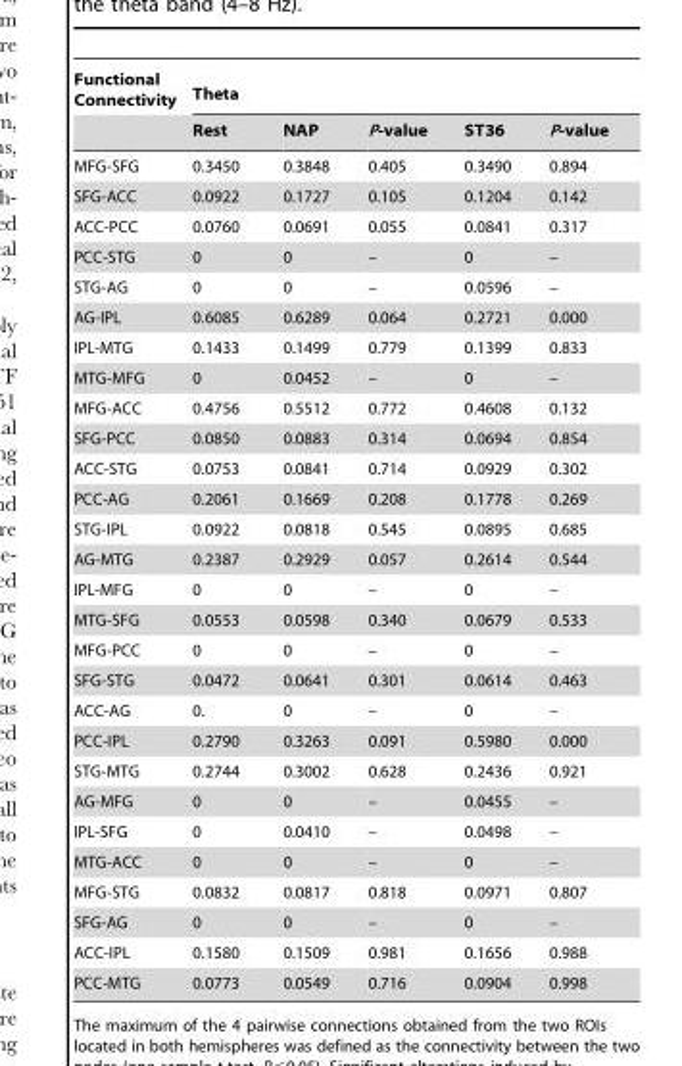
<table><thead><tr><td rowspan="2">Functional Connectivity</td><td colspan="5">Theta</td></tr><tr><td>Rest</td><td>NAP</td><td>P-value</td><td>ST36</td><td>P-value</td></tr></thead><tbody><tr><td>MFG-SFG</td><td>0.3450</td><td>0.3848</td><td>0.405</td><td>0.3490</td><td>0.894</td></tr><tr><td>SFG-ACC</td><td>0.0922</td><td>0.1727</td><td>0.105</td><td>0.1204</td><td>0.142</td></tr><tr><td>ACC-PCC</td><td>0.0760</td><td>0.0691</td><td>0.055</td><td>0.0841</td><td>0.317</td></tr><tr><td>PCC-STG</td><td>0</td><td>0</td><td>–</td><td>0</td><td>–</td></tr><tr><td>STG-AG</td><td>0</td><td>0</td><td>–</td><td>0.0596</td><td>–</td></tr><tr><td>AG-IPL</td><td>0.6085</td><td>0.6289</td><td>0.064</td><td>0.2721</td><td>0.000</td></tr><tr><td>IPL-MTG</td><td>0.1433</td><td>0.1499</td><td>0.779</td><td>0.1399</td><td>0.833</td></tr><tr><td>MTG-MFG</td><td>0</td><td>0.0452</td><td>–</td><td>0</td><td>–</td></tr><tr><td>MFG-ACC</td><td>0.4756</td><td>0.5512</td><td>0.772</td><td>0.4608</td><td>0.132</td></tr><tr><td>SFG-PCC</td><td>0.0850</td><td>0.0883</td><td>0.314</td><td>0.0694</td><td>0.854</td></tr><tr><td>ACC-STG</td><td>0.0753</td><td>0.0841</td><td>0.714</td><td>0.0929</td><td>0.302</td></tr><tr><td>PCC-AG</td><td>0.2061</td><td>0.1669</td><td>0.208</td><td>0.1778</td><td>0.269</td></tr><tr><td>STG-IPL</td><td>0.0922</td><td>0.0818</td><td>0.545</td><td>0.0895</td><td>0.685</td></tr><tr><td>AG-MTG</td><td>0.2387</td><td>0.2929</td><td>0.057</td><td>0.2614</td><td>0.544</td></tr><tr><td>IPL-MFG</td><td>0</td><td>0</td><td>–</td><td>0</td><td>–</td></tr><tr><td>MTG-SFG</td><td>0.0553</td><td>0.0598</td><td>0.340</td><td>0.0679</td><td>0.533</td></tr><tr><td>MFG-PCC</td><td>0</td><td>0</td><td>–</td><td>0</td><td>–</td></tr><tr><td>SFG-STG</td><td>0.0472</td><td>0.0641</td><td>0.301</td><td>0.0614</td><td>0.463</td></tr><tr><td>ACC-AG</td><td>0.</td><td>0</td><td>–</td><td>0</td><td>–</td></tr><tr><td>PCC-IPL</td><td>0.2790</td><td>0.3263</td><td>0.091</td><td>0.5980</td><td>0.000</td></tr><tr><td>STG-MTG</td><td>0.2744</td><td>0.3002</td><td>0.628</td><td>0.2436</td><td>0.921</td></tr><tr><td>AG-MFG</td><td>0</td><td>0</td><td>–</td><td>0.0455</td><td>–</td></tr><tr><td>IPL-SFG</td><td>0</td><td>0.0410</td><td>–</td><td>0.0498</td><td>–</td></tr><tr><td>MTG-ACC</td><td>0</td><td>0</td><td>–</td><td>0</td><td>–</td></tr><tr><td>MFG-STG</td><td>0.0832</td><td>0.0817</td><td>0.818</td><td>0.0971</td><td>0.807</td></tr><tr><td>SFG-AG</td><td>0</td><td>0</td><td>–</td><td>0</td><td>–</td></tr><tr><td>ACC-IPL</td><td>0.1580</td><td>0.1509</td><td>0.981</td><td>0.1656</td><td>0.988</td></tr><tr><td>PCC-MTG</td><td>0.0773</td><td>0.0549</td><td>0.716</td><td>0.0904</td><td>0.998</td></tr></tbody></table>